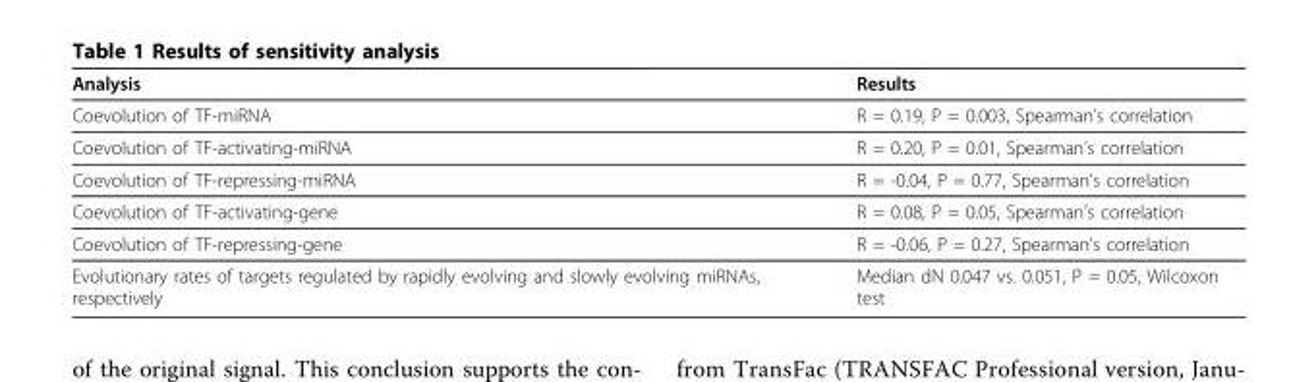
<table><thead><tr><td>Analysis</td><td>Results</td></tr></thead><tbody><tr><td>Coevolution of TF-miRNA</td><td>R = 0.19, P = 0.003, Spearman’s correlation</td></tr><tr><td>Coevolution of TF-activating-miRNA</td><td>R = 0.20, P = 0.01, Spearman’s correlation</td></tr><tr><td>Coevolution of TF-repressing-miRNA</td><td>R = -0.04, P = 0.77, Spearman’s correlation</td></tr><tr><td>Coevolution of TF-activating-gene</td><td>R = 0.08, P = 0.05, Spearman’s correlation</td></tr><tr><td>Coevolution of TF-repressing-gene</td><td>R = -0.06, P = 0.27, Spearman’s correlation</td></tr><tr><td>Evolutionary rates of targets regulated by rapidly evolving and slowly evolving miRNAs, respectively</td><td>Median dN 0.047 vs. 0.051, P = 0.05, Wilcoxon test</td></tr></tbody></table>